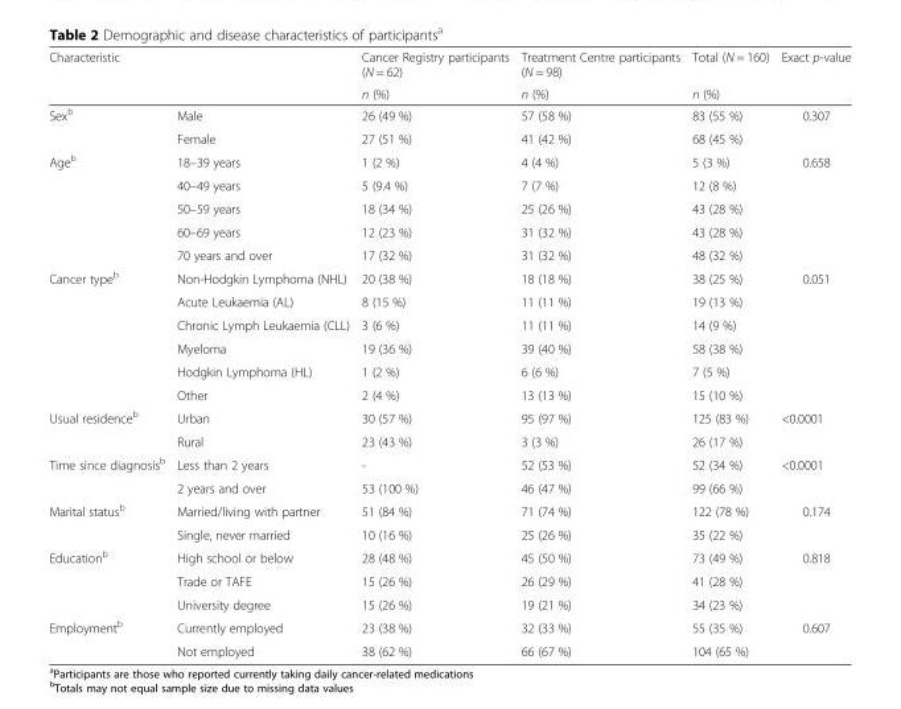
<table><thead><tr><td rowspan="2">Characteristic</td><td rowspan="2"></td><td rowspan="2">Cancer Registry participants (N = 62) n (%)</td><td rowspan="2">Treatment Centre participants (N = 98) n (%)</td><td rowspan="2">Total (N = 160) n (%)</td><td rowspan="2">Exact p-value</td></tr><tr></tr></thead><tbody><tr><td rowspan="2">Sex<sup>b</sup></td><td>Male</td><td>26 (49 %)</td><td>57 (58 %)</td><td>83 (55 %)</td><td>0.307</td></tr><tr><td>Female</td><td>27 (51 %)</td><td>41 (42 %)</td><td>68 (45 %)</td><td></td></tr><tr><td rowspan="5">Age<sup>b</sup></td><td>18–39 years</td><td>1 (2 %)</td><td>4 (4 %)</td><td>5 (3 %)</td><td>0.658</td></tr><tr><td>40–49 years</td><td>5 (9.4 %)</td><td>7 (7 %)</td><td>12 (8 %)</td><td></td></tr><tr><td>50–59 years</td><td>18 (34 %)</td><td>25 (26 %)</td><td>43 (28 %)</td><td></td></tr><tr><td>60–69 years</td><td>12 (23 %)</td><td>31 (32 %)</td><td>43 (28 %)</td><td></td></tr><tr><td>70 years and over</td><td>17 (32 %)</td><td>31 (32 %)</td><td>48 (32 %)</td><td></td></tr><tr><td rowspan="6">Cancer type<sup>b</sup></td><td>Non-Hodgkin Lymphoma (NHL)</td><td>20 (38 %)</td><td>18 (18 %)</td><td>38 (25 %)</td><td>0.051</td></tr><tr><td>Acute Leukaemia (AL)</td><td>8 (15 %)</td><td>11 (11 %)</td><td>19 (13 %)</td><td></td></tr><tr><td>Chronic Lymph Leukaemia (CLL)</td><td>3 (6 %)</td><td>11 (11 %)</td><td>14 (9 %)</td><td></td></tr><tr><td>Myeloma</td><td>19 (36 %)</td><td>39 (40 %)</td><td>58 (38 %)</td><td></td></tr><tr><td>Hodgkin Lymphoma (HL)</td><td>1 (2 %)</td><td>6 (6 %)</td><td>7 (5 %)</td><td></td></tr><tr><td>Other</td><td>2 (4 %)</td><td>13 (13 %)</td><td>15 (10 %)</td><td></td></tr><tr><td rowspan="2">Usual residence<sup>b</sup></td><td>Urban</td><td>30 (57 %)</td><td>95 (97 %)</td><td>125 (83 %)</td><td>&lt;0.0001</td></tr><tr><td>Rural</td><td>23 (43 %)</td><td>3 (3 %)</td><td>26 (17 %)</td><td></td></tr><tr><td rowspan="2">Time since diagnosis<sup>b</sup></td><td>Less than 2 years</td><td>-</td><td>52 (53 %)</td><td>52 (34 %)</td><td>&lt;0.0001</td></tr><tr><td>2 years and over</td><td>53 (100 %)</td><td>46 (47 %)</td><td>99 (66 %)</td><td></td></tr><tr><td rowspan="2">Marital status<sup>b</sup></td><td>Married/living with partner</td><td>51 (84 %)</td><td>71 (74 %)</td><td>122 (78 %)</td><td>0.174</td></tr><tr><td>Single, never married</td><td>10 (16 %)</td><td>25 (26 %)</td><td>35 (22 %)</td><td></td></tr><tr><td rowspan="3">Education<sup>b</sup></td><td>High school or below</td><td>28 (48 %)</td><td>45 (50 %)</td><td>73 (49 %)</td><td>0.818</td></tr><tr><td>Trade or TAFE</td><td>15 (26 %)</td><td>26 (29 %)</td><td>41 (28 %)</td><td></td></tr><tr><td>University degree</td><td>15 (26 %)</td><td>19 (21 %)</td><td>34 (23 %)</td><td></td></tr><tr><td rowspan="2">Employment<sup>b</sup></td><td>Currently employed</td><td>23 (38 %)</td><td>32 (33 %)</td><td>55 (35 %)</td><td>0.607</td></tr><tr><td>Not employed</td><td>38 (62 %)</td><td>66 (67 %)</td><td>104 (65 %)</td><td></td></tr></tbody></table>